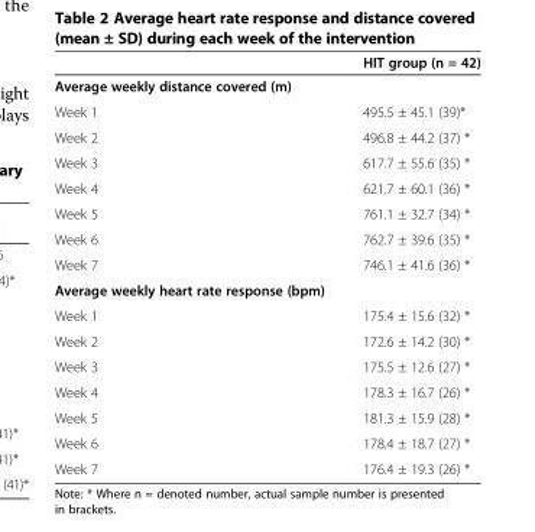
<table><thead><tr><td></td><td>HIT group (n = 42)</td></tr></thead><tbody><tr><td colspan="2">Average weekly distance covered (m)</td></tr><tr><td>Week 1</td><td>495.5 ± 45.1 (39)*</td></tr><tr><td>Week 2</td><td>496.8 ± 44.2 (37) *</td></tr><tr><td>Week 3</td><td>617.7 ± 55.6 (35) *</td></tr><tr><td>Week 4</td><td>621.7 ± 60.1 (36) *</td></tr><tr><td>Week 5</td><td>761.1 ± 32.7 (34) *</td></tr><tr><td>Week 6</td><td>762.7 ± 39.6 (35) *</td></tr><tr><td>Week 7</td><td>746.1 ± 41.6 (36) *</td></tr><tr><td colspan="2">Average weekly heart rate response (bpm)</td></tr><tr><td>Week 1</td><td>175.4 ± 15.6 (32) *</td></tr><tr><td>Week 2</td><td>172.6 ± 14.2 (30) *</td></tr><tr><td>Week 3</td><td>175.5 ± 12.6 (27) *</td></tr><tr><td>Week 4</td><td>178.3 ± 16.7 (26) *</td></tr><tr><td>Week 5</td><td>181.3 ± 15.9 (28) *</td></tr><tr><td>Week 6</td><td>178.4 ± 18.7 (27) *</td></tr><tr><td>Week 7</td><td>176.4 ± 19.3 (26) *</td></tr></tbody></table>